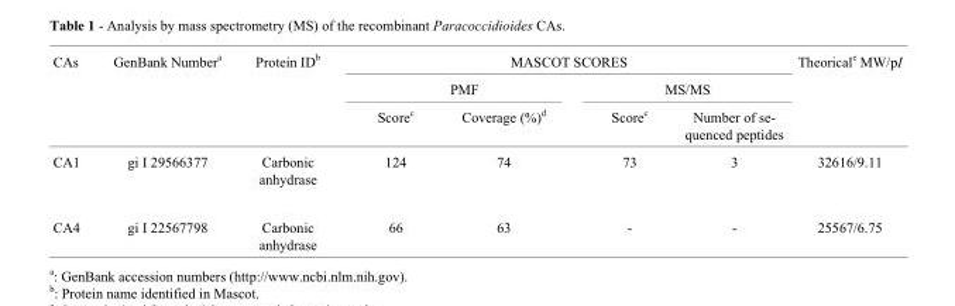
<table><thead><tr><td rowspan="3">CAs</td><td rowspan="3">GenBank Number<sup>a</sup></td><td rowspan="3">Protein ID<sup>b</sup></td><td colspan="4">MASCOT SCORES</td><td rowspan="3">Theorical<sup>e</sup> MW/pI</td></tr><tr><td colspan="2">PMF</td><td colspan="2">MS/MS</td></tr><tr><td>Score<sup>c</sup></td><td>Coverage (%)<sup>d</sup></td><td>Score<sup>c</sup></td><td>Number of se- quenced peptides</td></tr></thead><tbody><tr><td>CA1</td><td>gi I 29566377</td><td>Carbonic anhydrase</td><td>124</td><td>74</td><td>73</td><td>3</td><td>32616/9.11</td></tr><tr><td>CA4</td><td>gi I 22567798</td><td>Carbonic anhydrase</td><td>66</td><td>63</td><td>-</td><td>-</td><td>25567/6.75</td></tr></tbody></table>